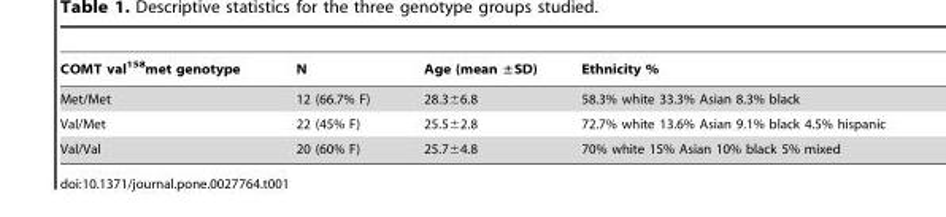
<table><thead><tr><td>COMT val<sup>158</sup>met genotype</td><td>N</td><td>Age (mean ±SD)</td><td>Ethnicity %</td></tr></thead><tbody><tr><td>Met/Met</td><td>12 (66.7% F)</td><td>28.3±6.8</td><td>58.3% white 33.3% Asian 8.3% black</td></tr><tr><td>Val/Met</td><td>22 (45% F)</td><td>25.5±2.8</td><td>72.7% white 13.6% Asian 9.1% black 4.5% hispanic</td></tr><tr><td>Val/Val</td><td>20 (60% F)</td><td>25.7±4.8</td><td>70% white 15% Asian 10% black 5% mixed</td></tr></tbody></table>